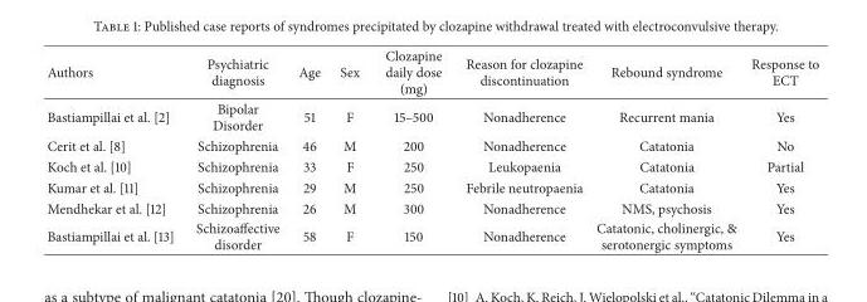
<table><thead><tr><td>Authors</td><td>Psychiatric diagnosis</td><td>Age</td><td>Sex</td><td>Clozapine daily dose (mg)</td><td>Reason for clozapine discontinuation</td><td>Rebound syndrome</td><td>Response to ECT</td></tr></thead><tbody><tr><td>Bastiampillai et al. [2]</td><td>Bipolar Disorder</td><td>51</td><td>F</td><td>15–500</td><td>Nonadherence</td><td>Recurrent mania</td><td>Yes</td></tr><tr><td>Cerit et al. [8]</td><td>Schizophrenia</td><td>46</td><td>M</td><td>200</td><td>Nonadherence</td><td>Catatonia</td><td>No</td></tr><tr><td>Koch et al. [10]</td><td>Schizophrenia</td><td>33</td><td>F</td><td>250</td><td>Leukopaenia</td><td>Catatonia</td><td>Partial</td></tr><tr><td>Kumar et al. [11]</td><td>Schizophrenia</td><td>29</td><td>M</td><td>250</td><td>Febrile neutropaenia</td><td>Catatonia</td><td>Yes</td></tr><tr><td>Mendhekar et al. [12]</td><td>Schizophrenia</td><td>26</td><td>M</td><td>300</td><td>Nonadherence</td><td>NMS, psychosis</td><td>Yes</td></tr><tr><td>Bastiampillai et al. [13]</td><td>Schizoaffective disorder</td><td>58</td><td>F</td><td>150</td><td>Nonadherence</td><td>Catatonic, cholinergic, &amp; serotonergic symptoms</td><td>Yes</td></tr></tbody></table>